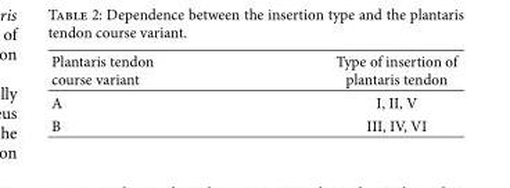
<table><thead><tr><td>Plantaris tendon course variant</td><td>Type of insertion of plantaris tendon</td></tr></thead><tbody><tr><td>A</td><td>I, II, V</td></tr><tr><td>B</td><td>III, IV, VI</td></tr></tbody></table>